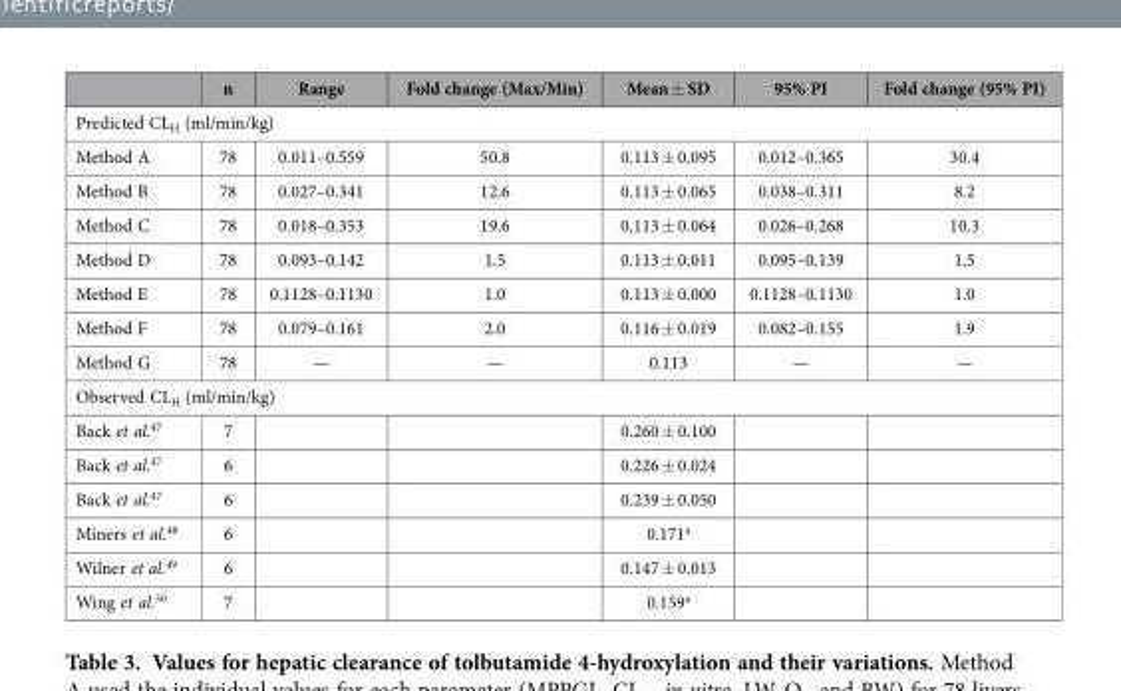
<table><thead><tr><td></td><td>n</td><td>Range</td><td>Fold change (Max/Min)</td><td>Mean ± SD</td><td>95% PI</td><td>Fold change (95% PI)</td></tr></thead><tbody><tr><td colspan="7">Predicted CL<sub>H</sub> (ml/min/kg)</td></tr><tr><td>Method A</td><td>78</td><td>0.011–0.559</td><td>50.8</td><td>0.113 ± 0.095</td><td>0.012–0.365</td><td>30.4</td></tr><tr><td>Method B</td><td>78</td><td>0.027–0.341</td><td>12.6</td><td>0.113 ± 0.065</td><td>0.038–0.311</td><td>8.2</td></tr><tr><td>Method C</td><td>78</td><td>0.018–0.353</td><td>19.6</td><td>0.113 ± 0.064</td><td>0.026–0.268</td><td>10.3</td></tr><tr><td>Method D</td><td>78</td><td>0.093–0.142</td><td>1.5</td><td>0.113 ± 0.011</td><td>0.095–0.139</td><td>1.5</td></tr><tr><td>Method E</td><td>78</td><td>0.1128–0.1130</td><td>1.0</td><td>0.113 ± 0.000</td><td>0.1128–0.1130</td><td>1.0</td></tr><tr><td>Method F</td><td>78</td><td>0.079–0.161</td><td>2.0</td><td>0.116 ± 0.019</td><td>0.082–0.155</td><td>1.9</td></tr><tr><td>Method G</td><td>78</td><td>—</td><td>—</td><td>0.113</td><td>—</td><td>—</td></tr><tr><td colspan="7">Observed CL<sub>H</sub> (ml/min/kg)</td></tr><tr><td>Back et al.<sup>47</sup></td><td>7</td><td></td><td></td><td>0.260 ± 0.100</td><td></td><td></td></tr><tr><td>Back et al.<sup>47</sup></td><td>6</td><td></td><td></td><td>0.226 ± 0.024</td><td></td><td></td></tr><tr><td>Back et al.<sup>47</sup></td><td>6</td><td></td><td></td><td>0.239 ± 0.050</td><td></td><td></td></tr><tr><td>Miners et al.<sup>48</sup></td><td>6</td><td></td><td></td><td>0.171<sup>a</sup></td><td></td><td></td></tr><tr><td>Wilner et al.<sup>49</sup></td><td>6</td><td></td><td></td><td>0.147 ± 0.013</td><td></td><td></td></tr><tr><td>Wing et al.<sup>50</sup></td><td>7</td><td></td><td></td><td>0.159<sup>a</sup></td><td></td><td></td></tr></tbody></table>